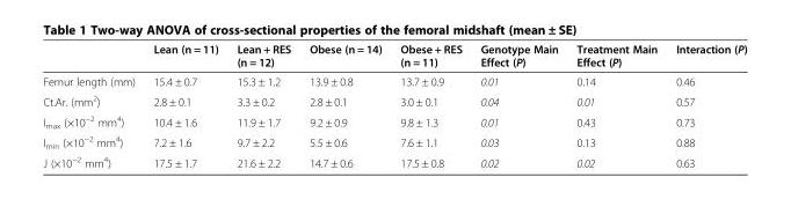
<table><thead><tr><td></td><td>Lean (n = 11)</td><td>Lean + RES (n = 12)</td><td>Obese (n = 14)</td><td>Obese + RES (n = 11)</td><td>Genotype Main Effect (P)</td><td>Treatment Main Effect (P)</td><td>Interaction (P)</td></tr></thead><tbody><tr><td>Femur length (mm)</td><td>15.4 ± 0.7</td><td>15.3 ± 1.2</td><td>13.9 ± 0.8</td><td>13.7 ± 0.9</td><td>0.01</td><td>0.14</td><td>0.46</td></tr><tr><td>Ct.Ar. (mm<sup>2</sup>)</td><td>2.8 ± 0.1</td><td>3.3 ± 0.2</td><td>2.8 ± 0.1</td><td>3.0 ± 0.1</td><td>0.04</td><td>0.01</td><td>0.57</td></tr><tr><td>I<sub>max</sub> (×10<sup>−2</sup> mm<sup>4</sup>)</td><td>10.4 ± 1.6</td><td>11.9 ± 1.7</td><td>9.2 ± 0.9</td><td>9.8 ± 1.3</td><td>0.01</td><td>0.43</td><td>0.73</td></tr><tr><td>I<sub>min</sub> (×10<sup>−2</sup> mm<sup>4</sup>)</td><td>7.2 ± 1.6</td><td>9.7 ± 2.2</td><td>5.5 ± 0.6</td><td>7.6 ± 1.1</td><td>0.03</td><td>0.13</td><td>0.88</td></tr><tr><td>J (×10<sup>−2</sup> mm<sup>4</sup>)</td><td>17.5 ± 1.7</td><td>21.6 ± 2.2</td><td>14.7 ± 0.6</td><td>17.5 ± 0.8</td><td>0.02</td><td>0.02</td><td>0.63</td></tr></tbody></table>